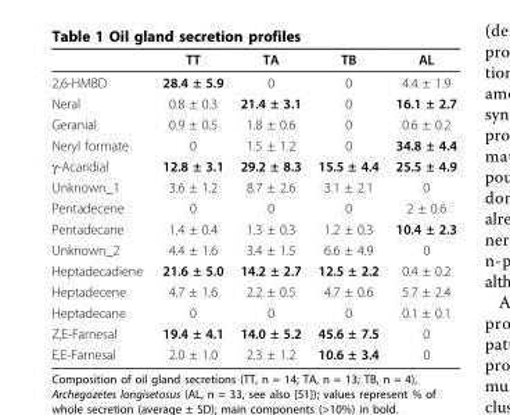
<table><thead><tr><td></td><td>TT</td><td>TA</td><td>TB</td><td>AL</td></tr></thead><tbody><tr><td>2,6-HMBD</td><td>28.4 ± 5.9</td><td>0</td><td>0</td><td>4.4 ± 1.9</td></tr><tr><td>Neral</td><td>0.8 ± 0.3</td><td>21.4 ± 3.1</td><td>0</td><td>16.1 ± 2.7</td></tr><tr><td>Geranial</td><td>0.9 ± 0.5</td><td>1.8 ± 0.6</td><td>0</td><td>0.6 ± 0.2</td></tr><tr><td>Neryl formate</td><td>0</td><td>1.5 ± 1.2</td><td>0</td><td>34.8 ± 4.4</td></tr><tr><td>γ-Acaridial</td><td>12.8 ± 3.1</td><td>29.2 ± 8.3</td><td>15.5 ± 4.4</td><td>25.5 ± 4.9</td></tr><tr><td>Unknown_1</td><td>3.6 ± 1.2</td><td>8.7 ± 2.6</td><td>3.1 ± 2.1</td><td>0</td></tr><tr><td>Pentadecene</td><td>0</td><td>0</td><td>0</td><td>2 ± 0.6</td></tr><tr><td>Pentadecane</td><td>1.4 ± 0.4</td><td>1.3 ± 0.3</td><td>1.2 ± 0.3</td><td>10.4 ± 2.3</td></tr><tr><td>Unknown_2</td><td>4.4 ± 1.6</td><td>3.4 ± 1.5</td><td>6.6 ± 4.9</td><td>0</td></tr><tr><td>Heptadecadiene</td><td>21.6 ± 5.0</td><td>14.2 ± 2.7</td><td>12.5 ± 2.2</td><td>0.4 ± 0.2</td></tr><tr><td>Heptadecene</td><td>4.7 ± 1.6</td><td>2.2 ± 0.5</td><td>4.7 ± 0.6</td><td>5.7 ± 2.4</td></tr><tr><td>Heptadecane</td><td>0</td><td>0</td><td>0</td><td>0.1 ± 0.1</td></tr><tr><td>Z,E-Farnesal</td><td>19.4 ± 4.1</td><td>14.0 ± 5.2</td><td>45.6 ± 7.5</td><td>0</td></tr><tr><td>E,E-Farnesal</td><td>2.0 ± 1.0</td><td>2.3 ± 1.2</td><td>10.6 ± 3.4</td><td>0</td></tr></tbody></table>